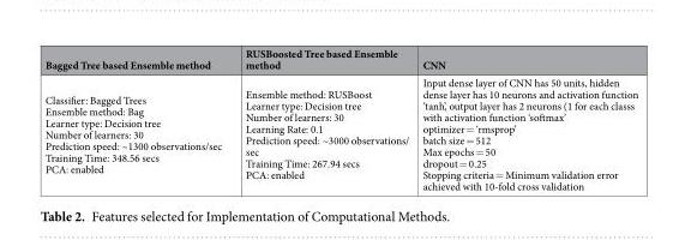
<table><thead><tr><td>Bagged Tree based Ensemble method</td><td>RUSBoosted Tree based Ensemble method</td><td>CNN</td></tr></thead><tbody><tr><td>Classifier: Bagged Trees Ensemble method: Bag Learner type: Decision tree Number of learners: 30 Prediction speed: ~1300 observations/sec Training Time: 348.56 secs PCA: enabled</td><td>Ensemble method: RUSBoost Learner type: Decision tree Number of learners: 30 Learning Rate: 0.1 Prediction speed: ~3000 observations/ sec Training Time: 267.94 secs PCA: enabled</td><td>Input dense layer of CNN has 50 units, hidden dense layer has 10 neurons and activation function ‘tanh’, output layer has 2 neurons (1 for each classs with activation function ‘softmax’ optimizer = ‘rmsprop’ batch size = 512 Max epochs = 50 dropout = 0.25 Stopping criteria = Minimum validation error achieved with 10-fold cross validation</td></tr></tbody></table>